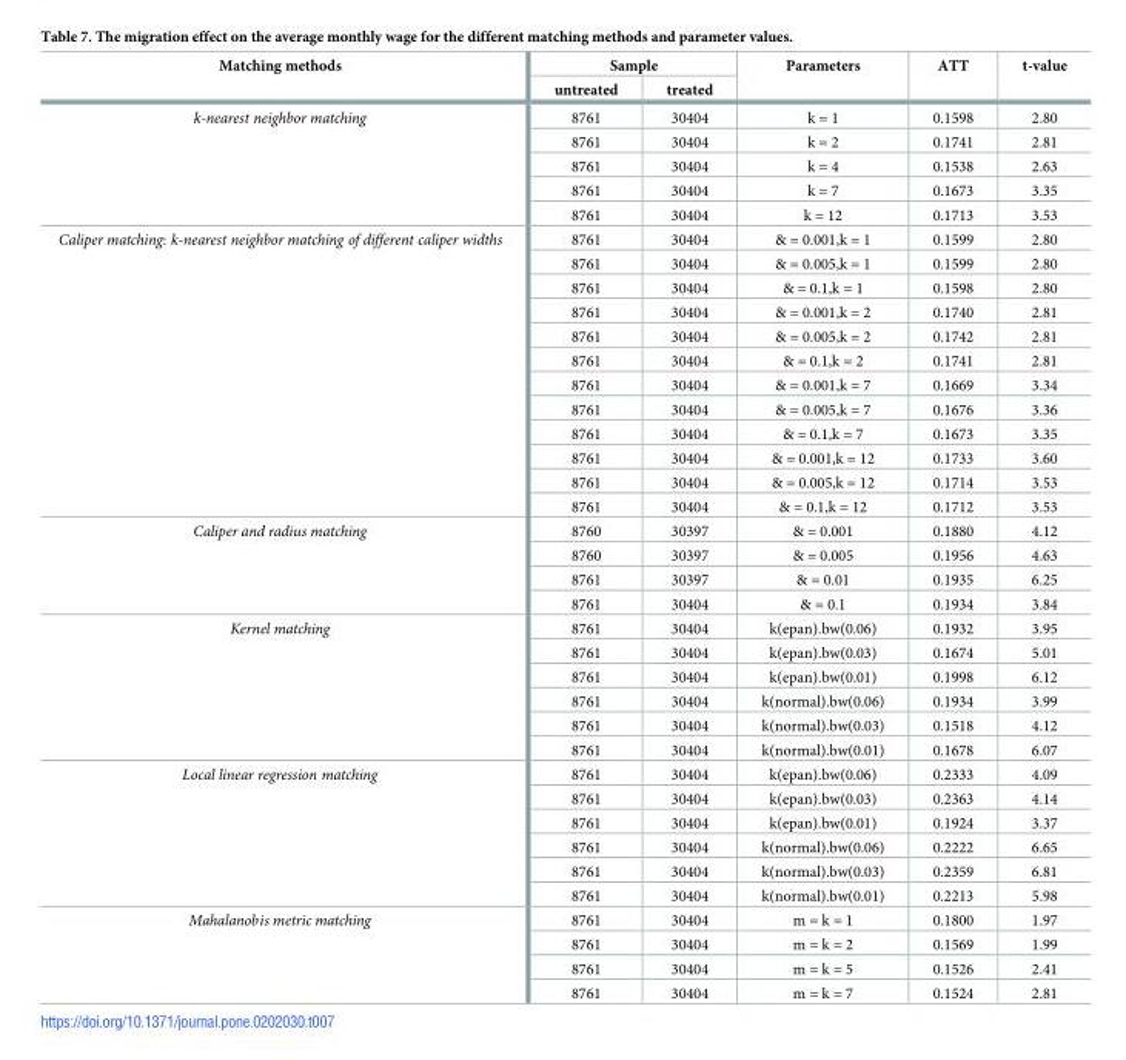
<table><thead><tr><td rowspan="2">Matching methods</td><td colspan="2">Sample</td><td rowspan="2">Parameters</td><td rowspan="2">ATT</td><td rowspan="2">t-value</td></tr><tr><td>untreated</td><td>treated</td></tr></thead><tbody><tr><td rowspan="5">k-nearest neighbor matching</td><td>8761</td><td>30404</td><td>k = 1</td><td>0.1598</td><td>2.80</td></tr><tr><td>8761</td><td>30404</td><td>k = 2</td><td>0.1741</td><td>2.81</td></tr><tr><td>8761</td><td>30404</td><td>k = 4</td><td>0.1538</td><td>2.63</td></tr><tr><td>8761</td><td>30404</td><td>k = 7</td><td>0.1673</td><td>3.35</td></tr><tr><td>8761</td><td>30404</td><td>k = 12</td><td>0.1713</td><td>3.53</td></tr><tr><td rowspan="12">Caliper matching: k-nearest neighbor matching of different caliper widths</td><td>8761</td><td>30404</td><td>&amp; = 0.001,k = 1</td><td>0.1599</td><td>2.80</td></tr><tr><td>8761</td><td>30404</td><td>&amp; = 0.005,k = 1</td><td>0.1599</td><td>2.80</td></tr><tr><td>8761</td><td>30404</td><td>&amp; = 0.1,k = 1</td><td>0.1598</td><td>2.80</td></tr><tr><td>8761</td><td>30404</td><td>&amp; = 0.001,k = 2</td><td>0.1740</td><td>2.81</td></tr><tr><td>8761</td><td>30404</td><td>&amp; = 0.005,k = 2</td><td>0.1742</td><td>2.81</td></tr><tr><td>8761</td><td>30404</td><td>&amp; = 0.1,k = 2</td><td>0.1741</td><td>2.81</td></tr><tr><td>8761</td><td>30404</td><td>&amp; = 0.001,k = 7</td><td>0.1669</td><td>3.34</td></tr><tr><td>8761</td><td>30404</td><td>&amp; = 0.005,k = 7</td><td>0.1676</td><td>3.36</td></tr><tr><td>8761</td><td>30404</td><td>&amp; = 0.1,k = 7</td><td>0.1673</td><td>3.35</td></tr><tr><td>8761</td><td>30404</td><td>&amp; = 0.001,k = 12</td><td>0.1733</td><td>3.60</td></tr><tr><td>8761</td><td>30404</td><td>&amp; = 0.005,k = 12</td><td>0.1714</td><td>3.53</td></tr><tr><td>8761</td><td>30404</td><td>&amp; = 0.1,k = 12</td><td>0.1712</td><td>3.53</td></tr><tr><td rowspan="4">Caliper and radius matching</td><td>8760</td><td>30397</td><td>&amp; = 0.001</td><td>0.1880</td><td>4.12</td></tr><tr><td>8760</td><td>30397</td><td>&amp; = 0.005</td><td>0.1956</td><td>4.63</td></tr><tr><td>8761</td><td>30397</td><td>&amp; = 0.01</td><td>0.1935</td><td>6.25</td></tr><tr><td>8761</td><td>30404</td><td>&amp; = 0.1</td><td>0.1934</td><td>3.84</td></tr><tr><td rowspan="6">Kernel matching</td><td>8761</td><td>30404</td><td>k(epan).bw(0.06)</td><td>0.1932</td><td>3.95</td></tr><tr><td>8761</td><td>30404</td><td>k(epan).bw(0.03)</td><td>0.1674</td><td>5.01</td></tr><tr><td>8761</td><td>30404</td><td>k(epan).bw(0.01)</td><td>0.1998</td><td>6.12</td></tr><tr><td>8761</td><td>30404</td><td>k(normal).bw(0.06)</td><td>0.1934</td><td>3.99</td></tr><tr><td>8761</td><td>30404</td><td>k(normal).bw(0.03)</td><td>0.1518</td><td>4.12</td></tr><tr><td>8761</td><td>30404</td><td>k(normal).bw(0.01)</td><td>0.1678</td><td>6.07</td></tr><tr><td rowspan="6">Local linear regression matching</td><td>8761</td><td>30404</td><td>k(epan).bw(0.06)</td><td>0.2333</td><td>4.09</td></tr><tr><td>8761</td><td>30404</td><td>k(epan).bw(0.03)</td><td>0.2363</td><td>4.14</td></tr><tr><td>8761</td><td>30404</td><td>k(epan).bw(0.01)</td><td>0.1924</td><td>3.37</td></tr><tr><td>8761</td><td>30404</td><td>k(normal).bw(0.06)</td><td>0.2222</td><td>6.65</td></tr><tr><td>8761</td><td>30404</td><td>k(normal).bw(0.03)</td><td>0.2359</td><td>6.81</td></tr><tr><td>8761</td><td>30404</td><td>k(normal).bw(0.01)</td><td>0.2213</td><td>5.98</td></tr><tr><td rowspan="4">Mahalanobis metric matching</td><td>8761</td><td>30404</td><td>m = k = 1</td><td>0.1800</td><td>1.97</td></tr><tr><td>8761</td><td>30404</td><td>m = k = 2</td><td>0.1569</td><td>1.99</td></tr><tr><td>8761</td><td>30404</td><td>m = k = 5</td><td>0.1526</td><td>2.41</td></tr><tr><td>8761</td><td>30404</td><td>m = k = 7</td><td>0.1524</td><td>2.81</td></tr></tbody></table>